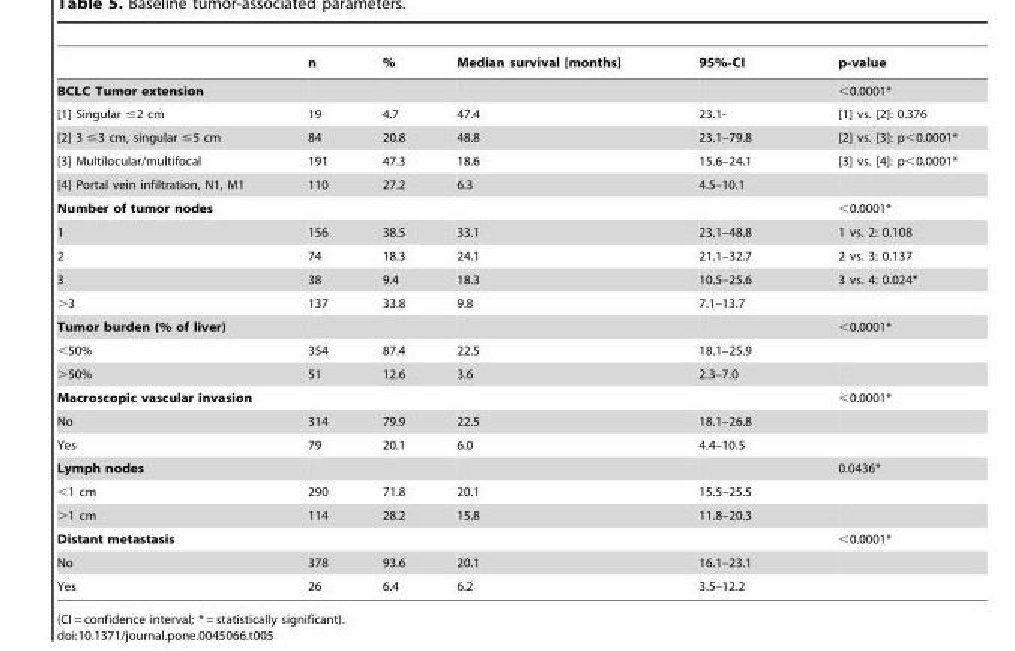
<table><thead><tr><td></td><td>n</td><td>%</td><td>Median survival [months]</td><td>95%-CI</td><td>p-value</td></tr></thead><tbody><tr><td>BCLC Tumor extension</td><td></td><td></td><td></td><td></td><td>&lt;0.0001*</td></tr><tr><td>[1] Singular ≤2 cm</td><td>19</td><td>4.7</td><td>47.4</td><td>23.1-</td><td>[1] vs. [2]: 0.376</td></tr><tr><td>[2] 3 ≤3 cm, singular ≤5 cm</td><td>84</td><td>20.8</td><td>48.8</td><td>23.1–79.8</td><td>[2] vs. [3]: p&lt;0.0001*</td></tr><tr><td>[3] Multilocular/multifocal</td><td>191</td><td>47.3</td><td>18.6</td><td>15.6–24.1</td><td>[3] vs. [4]: p&lt;0.0001*</td></tr><tr><td>[4] Portal vein infiltration, N1, M1</td><td>110</td><td>27.2</td><td>6.3</td><td>4.5–10.1</td><td></td></tr><tr><td>Number of tumor nodes</td><td></td><td></td><td></td><td></td><td>&lt;0.0001*</td></tr><tr><td>1</td><td>156</td><td>38.5</td><td>33.1</td><td>23.1–48.8</td><td>1 vs. 2: 0.108</td></tr><tr><td>2</td><td>74</td><td>18.3</td><td>24.1</td><td>21.1–32.7</td><td>2 vs. 3: 0.137</td></tr><tr><td>3</td><td>38</td><td>9.4</td><td>18.3</td><td>10.5–25.6</td><td>3 vs. 4: 0.024*</td></tr><tr><td>&gt;3</td><td>137</td><td>33.8</td><td>9.8</td><td>7.1–13.7</td><td></td></tr><tr><td>Tumor burden (% of liver)</td><td></td><td></td><td></td><td></td><td>&lt;0.0001*</td></tr><tr><td>&lt;50%</td><td>354</td><td>87.4</td><td>22.5</td><td>18.1–25.9</td><td></td></tr><tr><td>&gt;50%</td><td>51</td><td>12.6</td><td>3.6</td><td>2.3–7.0</td><td></td></tr><tr><td>Macroscopic vascular invasion</td><td></td><td></td><td></td><td></td><td>&lt;0.0001*</td></tr><tr><td>No</td><td>314</td><td>79.9</td><td>22.5</td><td>18.1–26.8</td><td></td></tr><tr><td>Yes</td><td>79</td><td>20.1</td><td>6.0</td><td>4.4–10.5</td><td></td></tr><tr><td>Lymph nodes</td><td></td><td></td><td></td><td></td><td>0.0436*</td></tr><tr><td>&lt;1 cm</td><td>290</td><td>71.8</td><td>20.1</td><td>15.5–25.5</td><td></td></tr><tr><td>&gt;1 cm</td><td>114</td><td>28.2</td><td>15.8</td><td>11.8–20.3</td><td></td></tr><tr><td>Distant metastasis</td><td></td><td></td><td></td><td></td><td>&lt;0.0001*</td></tr><tr><td>No</td><td>378</td><td>93.6</td><td>20.1</td><td>16.1–23.1</td><td></td></tr><tr><td>Yes</td><td>26</td><td>6.4</td><td>6.2</td><td>3.5–12.2</td><td></td></tr></tbody></table>